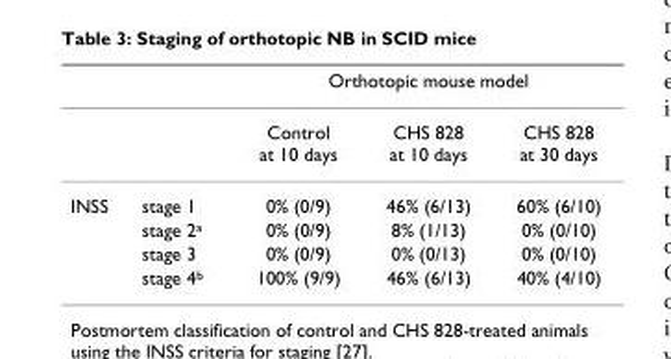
<table><thead><tr><td rowspan="2"></td><td rowspan="2"></td><td colspan="3">Orthotopic mouse model</td></tr><tr><td>Control at 10 days</td><td>CHS 828 at 10 days</td><td>CHS 828 at 30 days</td></tr></thead><tbody><tr><td rowspan="4">INSS</td><td>stage 1</td><td>0% (0/9)</td><td>46% (6/13)</td><td>60% (6/10)</td></tr><tr><td>stage 2<sup>a</sup></td><td>0% (0/9)</td><td>8% (1/13)</td><td>0% (0/10)</td></tr><tr><td>stage 3</td><td>0% (0/9)</td><td>0% (0/13)</td><td>0% (0/10)</td></tr><tr><td>stage 4<sup>b</sup></td><td>100% (9/9)</td><td>46% (6/13)</td><td>40% (4/10)</td></tr></tbody></table>